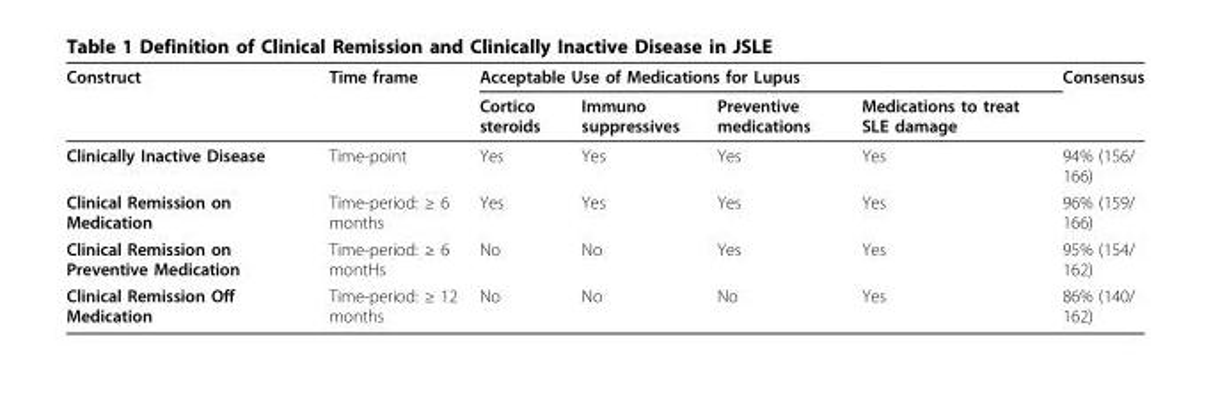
<table><thead><tr><td rowspan="2">Construct</td><td rowspan="2">Time frame</td><td colspan="4">Acceptable Use of Medications for Lupus</td><td rowspan="2">Consensus</td></tr><tr><td>Cortico steroids</td><td>Immuno suppressives</td><td>Preventive medications</td><td>Medications to treat SLE damage</td></tr></thead><tbody><tr><td>Clinically Inactive Disease</td><td>Time-point</td><td>Yes</td><td>Yes</td><td>Yes</td><td>Yes</td><td>94% (156/ 166)</td></tr><tr><td>Clinical Remission on Medication</td><td>Time-period: ≥ 6 months</td><td>Yes</td><td>Yes</td><td>Yes</td><td>Yes</td><td>96% (159/ 166)</td></tr><tr><td>Clinical Remission on Preventive Medication</td><td>Time-period: ≥ 6 montHs</td><td>No</td><td>No</td><td>Yes</td><td>Yes</td><td>95% (154/ 162)</td></tr><tr><td>Clinical Remission Off Medication</td><td>Time-period: ≥ 12 months</td><td>No</td><td>No</td><td>No</td><td>Yes</td><td>86% (140/ 162)</td></tr></tbody></table>